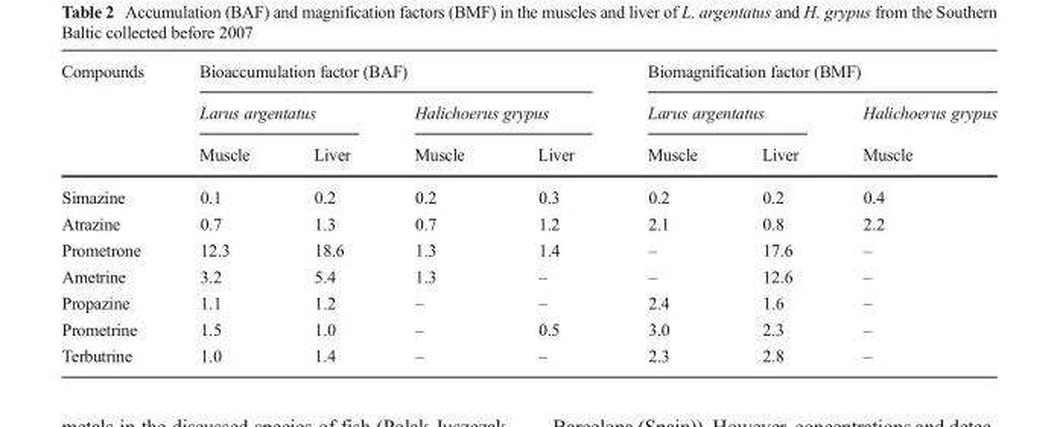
<table><thead><tr><td rowspan="3">Compounds</td><td colspan="4">Bioaccumulation factor (BAF)</td><td colspan="3">Biomagnification factor (BMF)</td></tr><tr><td colspan="2">Larus argentatus</td><td colspan="2">Halichoerus grypus</td><td colspan="2">Larus argentatus</td><td rowspan="2">Halichoerus grypus Muscle</td></tr><tr><td>Muscle</td><td>Liver</td><td>Muscle</td><td>Liver</td><td>Muscle</td><td>Liver</td></tr></thead><tbody><tr><td>Simazine</td><td>0.1</td><td>0.2</td><td>0.2</td><td>0.3</td><td>0.2</td><td>0.2</td><td>0.4</td></tr><tr><td>Atrazine</td><td>0.7</td><td>1.3</td><td>0.7</td><td>1.2</td><td>2.1</td><td>0.8</td><td>2.2</td></tr><tr><td>Prometrone</td><td>12.3</td><td>18.6</td><td>1.3</td><td>1.4</td><td>–</td><td>17.6</td><td>–</td></tr><tr><td>Ametrine</td><td>3.2</td><td>5.4</td><td>1.3</td><td>–</td><td>–</td><td>12.6</td><td>–</td></tr><tr><td>Propazine</td><td>1.1</td><td>1.2</td><td>–</td><td>–</td><td>2.4</td><td>1.6</td><td>–</td></tr><tr><td>Prometrine</td><td>1.5</td><td>1.0</td><td>–</td><td>0.5</td><td>3.0</td><td>2.3</td><td>–</td></tr><tr><td>Terbutrine</td><td>1.0</td><td>1.4</td><td>–</td><td>–</td><td>2.3</td><td>2.8</td><td>–</td></tr></tbody></table>